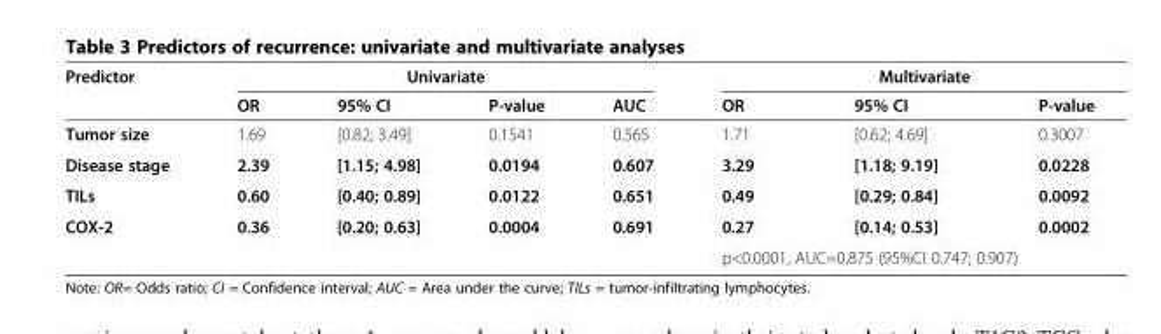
<table><thead><tr><td rowspan="2">Predictor</td><td colspan="4">Univariate</td><td colspan="3">Multivariate</td></tr><tr><td>OR</td><td>95% CI</td><td>P-value</td><td>AUC</td><td>OR</td><td>95% CI</td><td>P-value</td></tr></thead><tbody><tr><td>Tumor size</td><td>1.69</td><td>[0.82; 3.49]</td><td>0.1541</td><td>0.565</td><td>1.71</td><td>[0.62; 4.69]</td><td>0.3007</td></tr><tr><td>Disease stage</td><td>2.39</td><td>[1.15; 4.98]</td><td>0.0194</td><td>0.607</td><td>3.29</td><td>[1.18; 9.19]</td><td>0.0228</td></tr><tr><td>TILs</td><td>0.60</td><td>[0.40; 0.89]</td><td>0.0122</td><td>0.651</td><td>0.49</td><td>[0.29; 0.84]</td><td>0.0092</td></tr><tr><td rowspan="2">COX-2</td><td>0.36</td><td>[0.20; 0.63]</td><td>0.0004</td><td>0.691</td><td>0.27</td><td>[0.14; 0.53]</td><td>0.0002</td></tr><tr><td></td><td></td><td></td><td></td><td colspan="3">p&lt;0.0001, AUC=0.875 (95%CI 0.747; 0.907)</td></tr></tbody></table>